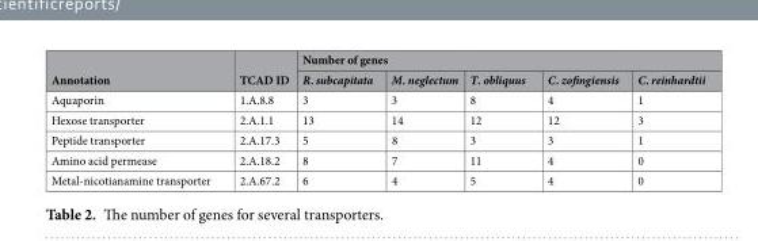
<table><thead><tr><td rowspan="2">Annotation</td><td rowspan="2">TCAD ID</td><td colspan="5">Number of genes</td></tr><tr><td>R. subcapitata</td><td>M. neglectum</td><td>T. obliquus</td><td>C. zofingiensis</td><td>C. reinhardtii</td></tr></thead><tbody><tr><td>Aquaporin</td><td>1.A.8.8</td><td>3</td><td>3</td><td>8</td><td>4</td><td>1</td></tr><tr><td>Hexose transporter</td><td>2.A.1.1</td><td>13</td><td>14</td><td>12</td><td>12</td><td>3</td></tr><tr><td>Peptide transporter</td><td>2.A.17.3</td><td>5</td><td>8</td><td>3</td><td>3</td><td>1</td></tr><tr><td>Amino acid permease</td><td>2.A.18.2</td><td>8</td><td>7</td><td>11</td><td>4</td><td>0</td></tr><tr><td>Metal-nicotianamine transporter</td><td>2.A.67.2</td><td>6</td><td>4</td><td>5</td><td>4</td><td>0</td></tr></tbody></table>